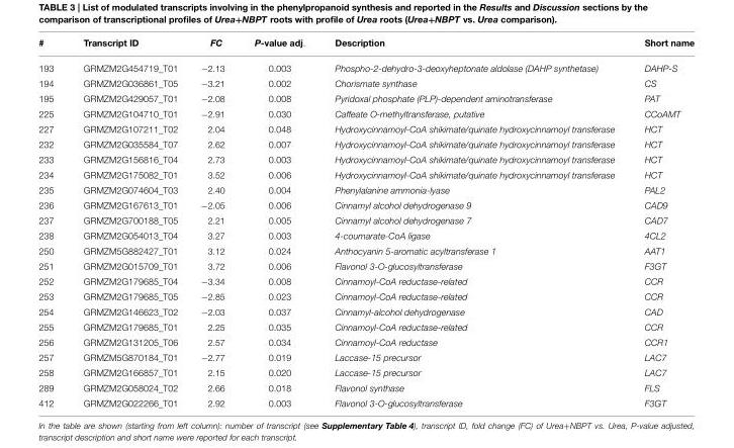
<table><thead><tr><td>#</td><td>Transcript ID</td><td>FC</td><td>P-value adj.</td><td>Description</td><td>Short name</td></tr></thead><tbody><tr><td>193</td><td>GRMZM2G454719_T01</td><td>−2.13</td><td>0.003</td><td>Phospho-2-dehydro-3-deoxyheptonate aldolase (DAHP synthetase)</td><td>DAHP-S</td></tr><tr><td>194</td><td>GRMZM2G036861_T05</td><td>−3.21</td><td>0.002</td><td>Chorismate synthase</td><td>CS</td></tr><tr><td>195</td><td>GRMZM2G429057_T01</td><td>−2.08</td><td>0.008</td><td>Pyridoxal phosphate (PLP)-dependent aminotransferase</td><td>PAT</td></tr><tr><td>225</td><td>GRMZM2G104710_T01</td><td>−2.91</td><td>0.030</td><td>Caffeate O-methyltransferase, putative</td><td>CCoAMT</td></tr><tr><td>227</td><td>GRMZM2G107211_T02</td><td>2.04</td><td>0.048</td><td>Hydroxycinnamoyl-CoA shikimate/quinate hydroxycinnamoyl transferase</td><td>HCT</td></tr><tr><td>232</td><td>GRMZM2G035584_T07</td><td>2.62</td><td>0.007</td><td>Hydroxycinnamoyl-CoA shikimate/quinate hydroxycinnamoyl transferase</td><td>HCT</td></tr><tr><td>233</td><td>GRMZM2G156816_T04</td><td>2.73</td><td>0.003</td><td>Hydroxycinnamoyl-CoA shikimate/quinate hydroxycinnamoyl transferase</td><td>HCT</td></tr><tr><td>234</td><td>GRMZM2G175082_T01</td><td>3.52</td><td>0.006</td><td>Hydroxycinnamoyl-CoA shikimate/quinate hydroxycinnamoyl transferase</td><td>HCT</td></tr><tr><td>235</td><td>GRMZM2G074604_T03</td><td>2.40</td><td>0.004</td><td>Phenylalanine ammonia-lyase</td><td>PAL2</td></tr><tr><td>236</td><td>GRMZM2G167613_T01</td><td>−2.05</td><td>0.006</td><td>Cinnamyl alcohol dehydrogenase 9</td><td>CAD9</td></tr><tr><td>237</td><td>GRMZM2G700188_T05</td><td>2.21</td><td>0.005</td><td>Cinnamyl alcohol dehydrogenase 7</td><td>CAD7</td></tr><tr><td>238</td><td>GRMZM2G054013_T04</td><td>3.27</td><td>0.003</td><td>4-coumarate-CoA ligase</td><td>4CL2</td></tr><tr><td>250</td><td>GRMZM5G882427_T01</td><td>3.12</td><td>0.024</td><td>Anthocyanin 5-aromatic acyltransferase 1</td><td>AAT1</td></tr><tr><td>251</td><td>GRMZM2G015709_T01</td><td>3.72</td><td>0.006</td><td>Flavonol 3-O-glucosyltransferase</td><td>F3GT</td></tr><tr><td>252</td><td>GRMZM2G179685_T04</td><td>−3.34</td><td>0.008</td><td>Cinnamoyl-CoA reductase-related</td><td>CCR</td></tr><tr><td>253</td><td>GRMZM2G179685_T05</td><td>−2.85</td><td>0.023</td><td>Cinnamoyl-CoA reductase-related</td><td>CCR</td></tr><tr><td>254</td><td>GRMZM2G146623_T02</td><td>−2.03</td><td>0.037</td><td>Cinnamyl-alcohol dehydrogenase</td><td>CAD</td></tr><tr><td>255</td><td>GRMZM2G179685_T01</td><td>2.25</td><td>0.035</td><td>Cinnamoyl-CoA reductase-related</td><td>CCR</td></tr><tr><td>256</td><td>GRMZM2G131205_T06</td><td>2.57</td><td>0.034</td><td>Cinnamoyl-CoA reductase</td><td>CCR1</td></tr><tr><td>257</td><td>GRMZM5G870184_T01</td><td>−2.77</td><td>0.019</td><td>Laccase-15 precursor</td><td>LAC7</td></tr><tr><td>258</td><td>GRMZM2G166857_T01</td><td>2.15</td><td>0.020</td><td>Laccase-15 precursor</td><td>LAC7</td></tr><tr><td>289</td><td>GRMZM2G058024_T02</td><td>2.66</td><td>0.018</td><td>Flavonol synthase</td><td>FLS</td></tr><tr><td>412</td><td>GRMZM2G022266_T01</td><td>2.92</td><td>0.003</td><td>Flavonol 3-O-glucosyltransferase</td><td>F3GT</td></tr></tbody></table>